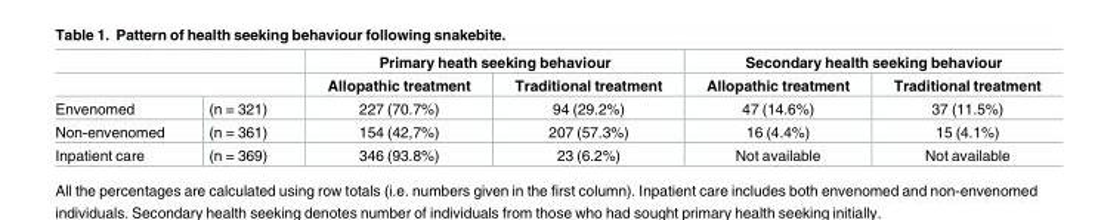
<table><thead><tr><td rowspan="2"></td><td rowspan="2"></td><td colspan="2">Primary heath seeking behaviour</td><td colspan="2">Secondary health seeking behaviour</td></tr><tr><td>Allopathic treatment</td><td>Traditional treatment</td><td>Allopathic treatment</td><td>Traditional treatment</td></tr></thead><tbody><tr><td>Envenomed</td><td>(n = 321)</td><td>227 (70.7%)</td><td>94 (29.2%)</td><td>47 (14.6%)</td><td>37 (11.5%)</td></tr><tr><td>Non-envenomed</td><td>(n = 361)</td><td>154 (42,7%)</td><td>207 (57.3%)</td><td>16 (4.4%)</td><td>15 (4.1%)</td></tr><tr><td>Inpatient care</td><td>(n = 369)</td><td>346 (93.8%)</td><td>23 (6.2%)</td><td>Not available</td><td>Not available</td></tr></tbody></table>